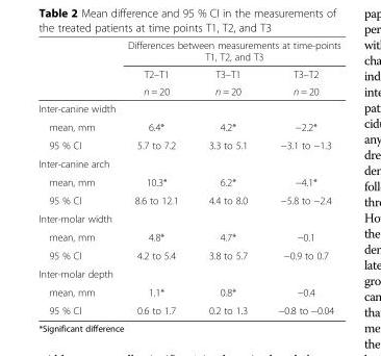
<table><thead><tr><td rowspan="3"></td><td colspan="3">Differences between measurements at time-points T1, T2, and T3</td></tr><tr><td rowspan="2">T2–T1 n = 20</td><td rowspan="2">T3–T1 n = 20</td><td rowspan="2">T3–T2 n = 20</td></tr><tr></tr></thead><tbody><tr><td colspan="4">Inter-canine width</td></tr><tr><td>mean, mm</td><td>6.4*</td><td>4.2*</td><td>−2.2*</td></tr><tr><td>95 % CI</td><td>5.7 to 7.2</td><td>3.3 to 5.1</td><td>−3.1 to −1.3</td></tr><tr><td colspan="4">Inter-canine arch</td></tr><tr><td>mean, mm</td><td>10.3*</td><td>6.2*</td><td>−4.1*</td></tr><tr><td>95 % CI</td><td>8.6 to 12.1</td><td>4.4 to 8.0</td><td>−5.8 to −2.4</td></tr><tr><td colspan="4">Inter-molar width</td></tr><tr><td>mean, mm</td><td>4.8*</td><td>4.7*</td><td>−0.1</td></tr><tr><td>95 % CI</td><td>4.2 to 5.4</td><td>3.8 to 5.7</td><td>−0.9 to 0.7</td></tr><tr><td colspan="4">Inter-molar depth</td></tr><tr><td>mean, mm</td><td>1.1*</td><td>0.8*</td><td>−0.4</td></tr><tr><td>95 % CI</td><td>0.6 to 1.7</td><td>0.2 to 1.3</td><td>−0.8 to −0.04</td></tr></tbody></table>